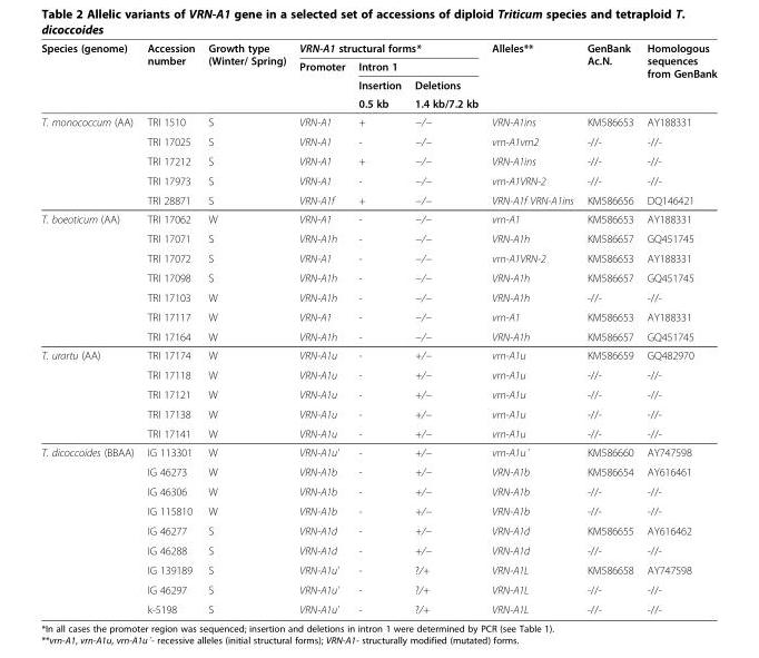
<table><thead><tr><td rowspan="4">Species (genome)</td><td rowspan="4">Accession number</td><td rowspan="4">Growth type (Winter/ Spring)</td><td colspan="3">VRN-A1 structural forms*</td><td rowspan="4">Alleles**</td><td rowspan="4">GenBank Ac.N.</td><td rowspan="4">Homologous sequences from GenBank</td></tr><tr><td rowspan="3">Promoter</td><td colspan="2">Intron 1</td></tr><tr><td rowspan="2">Insertion 0.5 kb</td><td rowspan="2">Deletions 1.4 kb/7.2 kb</td></tr><tr></tr></thead><tbody><tr><td rowspan="5">T. monococcum (AA)</td><td>TRI 1510</td><td>S</td><td>VRN-A1</td><td>+</td><td>−/−</td><td>VRN-A1ins</td><td>KM586653</td><td>AY188331</td></tr><tr><td>TRI 17025</td><td>S</td><td>VRN-A1</td><td>-</td><td>−/−</td><td>vrn-A1vrn2</td><td>-//-</td><td>-//-</td></tr><tr><td>TRI 17212</td><td>S</td><td>VRN-A1</td><td>+</td><td>−/−</td><td>VRN-A1ins</td><td>-//-</td><td>-//-</td></tr><tr><td>TRI 17973</td><td>S</td><td>VRN-A1</td><td>-</td><td>−/−</td><td>vrn-A1VRN-2</td><td>-//-</td><td>-//-</td></tr><tr><td>TRI 28871</td><td>S</td><td>VRN-A1f</td><td>+</td><td>−/−</td><td>VRN-A1f VRN-A1ins</td><td>KM586656</td><td>DQ146421</td></tr><tr><td rowspan="7">T. boeoticum (AA)</td><td>TRI 17062</td><td>W</td><td>VRN-A1</td><td>-</td><td>−/−</td><td>vrn-A1</td><td>KM586653</td><td>AY188331</td></tr><tr><td>TRI 17071</td><td>S</td><td>VRN-A1h</td><td>-</td><td>−/−</td><td>VRN-A1h</td><td>KM586657</td><td>GQ451745</td></tr><tr><td>TRI 17072</td><td>S</td><td>VRN-A1</td><td>-</td><td>−/−</td><td>vrn-A1VRN-2</td><td>KM586653</td><td>AY188331</td></tr><tr><td>TRI 17098</td><td>S</td><td>VRN-A1h</td><td>-</td><td>−/−</td><td>VRN-A1h</td><td>KM586657</td><td>GQ451745</td></tr><tr><td>TRI 17103</td><td>W</td><td>VRN-A1h</td><td>-</td><td>−/−</td><td>VRN-A1h</td><td>-//-</td><td>-//-</td></tr><tr><td>TRI 17117</td><td>W</td><td>VRN-A1</td><td>-</td><td>−/−</td><td>vrn-A1</td><td>KM586653</td><td>AY188331</td></tr><tr><td>TRI 17164</td><td>W</td><td>VRN-A1h</td><td>-</td><td>−/−</td><td>VRN-A1h</td><td>KM586657</td><td>GQ451745</td></tr><tr><td rowspan="5">T. urartu (AA)</td><td>TRI 17174</td><td>W</td><td>VRN-A1u</td><td>-</td><td>+/−</td><td>vrn-A1u</td><td>KM586659</td><td>GQ482970</td></tr><tr><td>TRI 17118</td><td>W</td><td>VRN-A1u</td><td>-</td><td>+/−</td><td>vrn-A1u</td><td>-//-</td><td>-//-</td></tr><tr><td>TRI 17121</td><td>W</td><td>VRN-A1u</td><td>-</td><td>+/−</td><td>vrn-A1u</td><td>-//-</td><td>-//-</td></tr><tr><td>TRI 17138</td><td>W</td><td>VRN-A1u</td><td>-</td><td>+/−</td><td>vrn-A1u</td><td>-//-</td><td>-//-</td></tr><tr><td>TRI 17141</td><td>W</td><td>VRN-A1u</td><td>-</td><td>+/−</td><td>vrn-A1u</td><td>-//-</td><td>-//-</td></tr><tr><td rowspan="9">T. dicoccoides (BBAA)</td><td>IG 113301</td><td>W</td><td>VRN-A1u’</td><td>-</td><td>+/−</td><td>vrn-A1u´</td><td>KM586660</td><td>AY747598</td></tr><tr><td>IG 46273</td><td>W</td><td>VRN-A1b</td><td>-</td><td>+/−</td><td>VRN-A1b</td><td>KM586654</td><td>AY616461</td></tr><tr><td>IG 46306</td><td>W</td><td>VRN-A1b</td><td>-</td><td>+/−</td><td>VRN-A1b</td><td>-//-</td><td>-//-</td></tr><tr><td>IG 115810</td><td>W</td><td>VRN-A1b</td><td>-</td><td>+/−</td><td>VRN-A1b</td><td>-//-</td><td>-//-</td></tr><tr><td>IG 46277</td><td>S</td><td>VRN-A1d</td><td>-</td><td>+/−</td><td>VRN-A1d</td><td>KM586655</td><td>AY616462</td></tr><tr><td>IG 46288</td><td>S</td><td>VRN-A1d</td><td>-</td><td>+/−</td><td>VRN-A1d</td><td>-//-</td><td>-//-</td></tr><tr><td>IG 139189</td><td>S</td><td>VRN-A1u’</td><td>-</td><td>?/+</td><td>VRN-A1L</td><td>KM586658</td><td>AY747598</td></tr><tr><td>IG 46297</td><td>S</td><td>VRN-A1u’</td><td>-</td><td>?/+</td><td>VRN-A1L</td><td>-//-</td><td>-//-</td></tr><tr><td>k-5198</td><td>S</td><td>VRN-A1u’</td><td>-</td><td>?/+</td><td>VRN-A1L</td><td>-//-</td><td>-//-</td></tr></tbody></table>